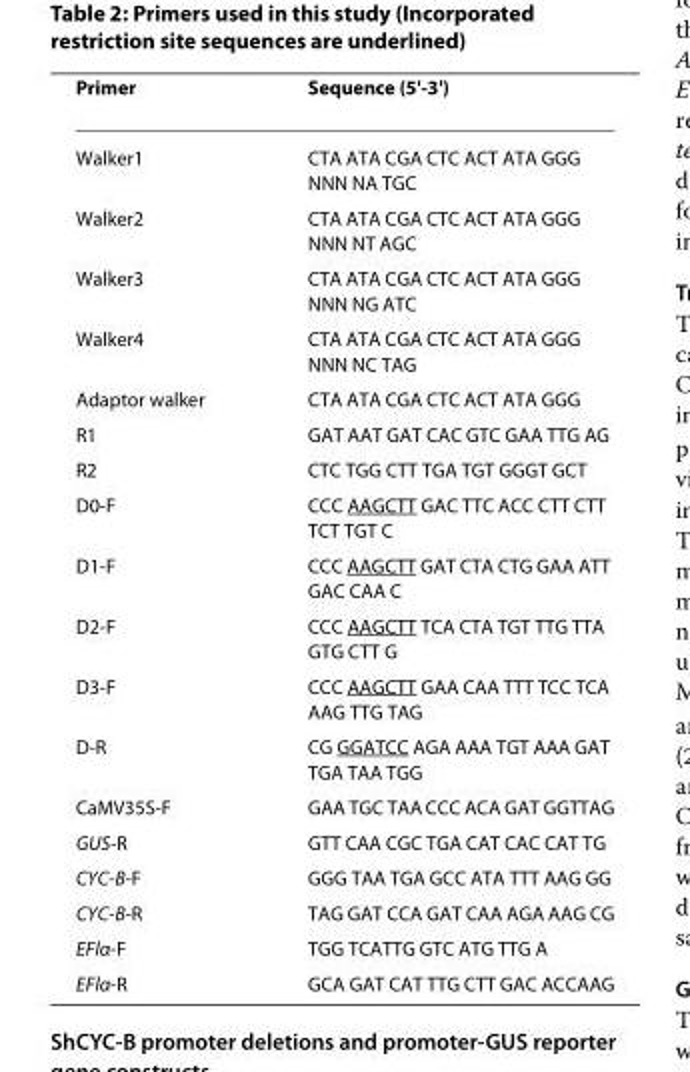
<table><thead><tr><td>Primer</td><td>Sequence (5&#x27;-3&#x27;)</td></tr></thead><tbody><tr><td>Walker1</td><td>CTA ATA CGA CTC ACT ATA GGG NNN NA TGC</td></tr><tr><td>Walker2</td><td>CTA ATA CGA CTC ACT ATA GGG NNN NT AGC</td></tr><tr><td>Walker3</td><td>CTA ATA CGA CTC ACT ATA GGG NNN NG ATC</td></tr><tr><td>Walker4</td><td>CTA ATA CGA CTC ACT ATA GGG NNN NC TAG</td></tr><tr><td>Adaptor walker</td><td>CTA ATA CGA CTC ACT ATA GGG</td></tr><tr><td>R1</td><td>GAT AAT GAT CAC GTC GAA TTG AG</td></tr><tr><td>R2</td><td>CTC TGG CTT TGA TGT GGGT GCT</td></tr><tr><td>D0-F</td><td>CCC AAGCTT GAC TTC ACC CTT CTT TCT TGT C</td></tr><tr><td>D1-F</td><td>CCC AAGCTT GAT CTA CTG GAA ATT GAC CAA C</td></tr><tr><td>D2-F</td><td>CCC AAGCTT TCA CTA TGT TTG TTA GTG CTT G</td></tr><tr><td>D3-F</td><td>CCC AAGCTT GAA CAA TTT TCC TCA AAG TTG TAG</td></tr><tr><td>D-R</td><td>CG GGATCC AGA AAA TGT AAA GAT TGA TAA TGG</td></tr><tr><td>CaMV35S-F</td><td>GAA TGC TAA CCC ACA GAT GGTTAG</td></tr><tr><td>GUS-R</td><td>GTT CAA CGC TGA CAT CAC CAT TG</td></tr><tr><td>CYC-B-F</td><td>GGG TAA TGA GCC ATA TTT AAG GG</td></tr><tr><td>CYC-B-R</td><td>TAG GAT CCA GAT CAA AGA AAG CG</td></tr><tr><td>EFlα-F</td><td>TGG TCATTG GTC ATG TTG A</td></tr><tr><td>EFlα-R</td><td>GCA GAT CAT TTG CTT GAC ACCAAG</td></tr></tbody></table>